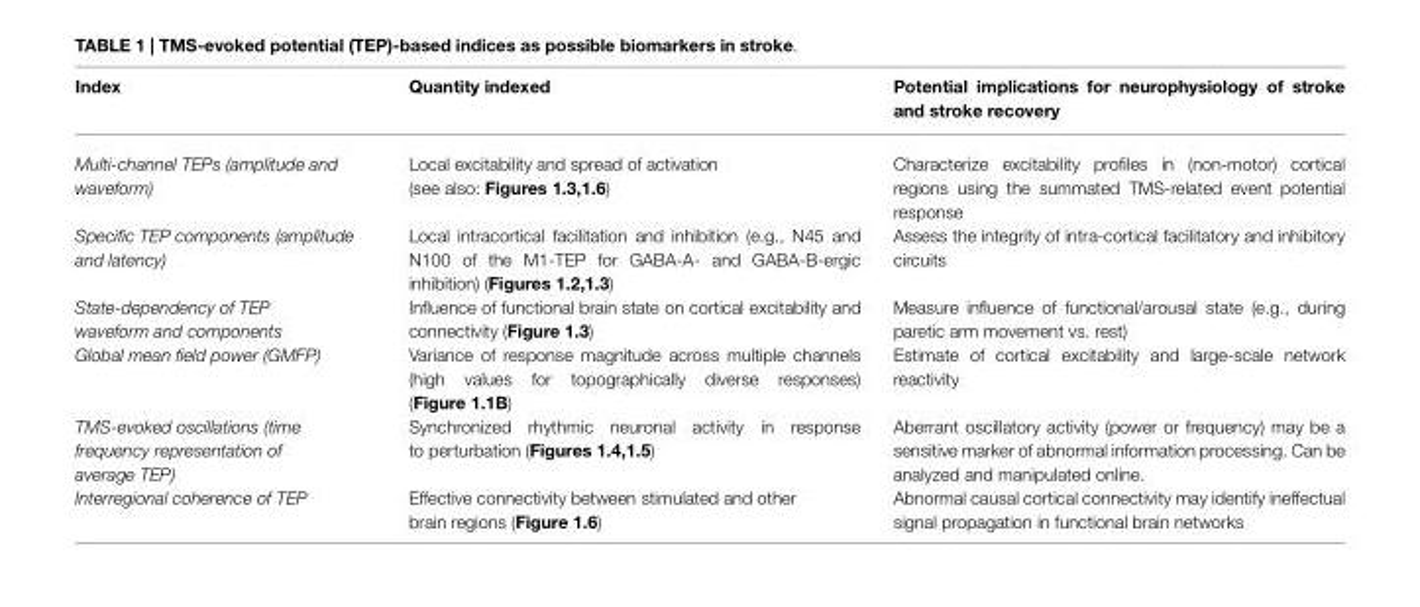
<table><thead><tr><td>Index</td><td>Quantity indexed</td><td>Potential implications for neurophysiology of stroke and stroke recovery</td></tr></thead><tbody><tr><td>Multi-channel TEPs (amplitude and waveform)</td><td>Local excitability and spread of activation (see also: Figures 1.3,1.6)</td><td>Characterize excitability profiles in (non-motor) cortical regions using the summated TMS-related event potential response</td></tr><tr><td>Specific TEP components (amplitude and latency)</td><td>Local intracortical facilitation and inhibition (e.g., N45 and N100 of the M1-TEP for GABA-A- and GABA-B-ergic inhibition) (Figures 1.2,1.3)</td><td>Assess the integrity of intra-cortical facilitatory and inhibitory circuits</td></tr><tr><td>State-dependency of TEP waveform and components</td><td>Influence of functional brain state on cortical excitability and connectivity (Figure 1.3)</td><td>Measure influence of functional/arousal state (e.g., during paretic arm movement vs. rest)</td></tr><tr><td>Global mean field power (GMFP)</td><td>Variance of response magnitude across multiple channels (high values for topographically diverse responses) (Figure 1.1B)</td><td>Estimate of cortical excitability and large-scale network reactivity</td></tr><tr><td>TMS-evoked oscillations (time frequency representation of average TEP)</td><td>Synchronized rhythmic neuronal activity in response to perturbation (Figures 1.4,1.5)</td><td>Aberrant oscillatory activity (power or frequency) may be a sensitive marker of abnormal information processing. Can be analyzed and manipulated online.</td></tr><tr><td>Interregional coherence of TEP</td><td>Effective connectivity between stimulated and other brain regions (Figure 1.6)</td><td>Abnormal causal cortical connectivity may identify ineffectual signal propagation in functional brain networks</td></tr></tbody></table>